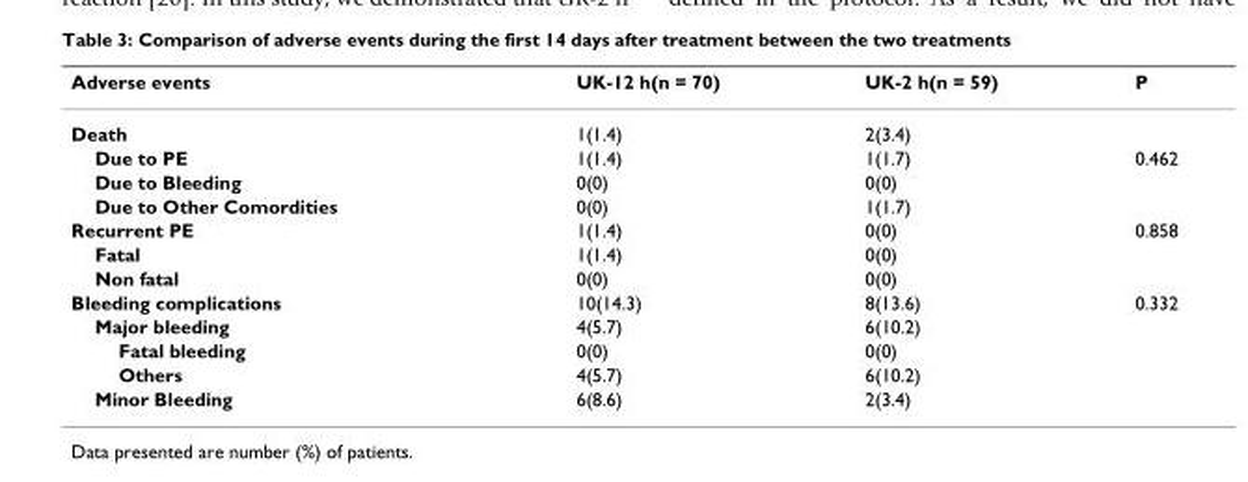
<table><thead><tr><td>Adverse events</td><td>UK-12 h(n = 70)</td><td>UK-2 h(n = 59)</td><td>P</td></tr></thead><tbody><tr><td>Death</td><td>1(1.4)</td><td>2(3.4)</td><td></td></tr><tr><td>Due to PE</td><td>1(1.4)</td><td>1(1.7)</td><td>0.462</td></tr><tr><td>Due to Bleeding</td><td>0(0)</td><td>0(0)</td><td></td></tr><tr><td>Due to Other Comordities</td><td>0(0)</td><td>1(1.7)</td><td></td></tr><tr><td>Recurrent PE</td><td>1(1.4)</td><td>0(0)</td><td>0.858</td></tr><tr><td>Fatal</td><td>1(1.4)</td><td>0(0)</td><td></td></tr><tr><td>Non fatal</td><td>0(0)</td><td>0(0)</td><td></td></tr><tr><td>Bleeding complications</td><td>10(14.3)</td><td>8(13.6)</td><td>0.332</td></tr><tr><td>Major bleeding</td><td>4(5.7)</td><td>6(10.2)</td><td></td></tr><tr><td>Fatal bleeding</td><td>0(0)</td><td>0(0)</td><td></td></tr><tr><td>Others</td><td>4(5.7)</td><td>6(10.2)</td><td></td></tr><tr><td>Minor Bleeding</td><td>6(8.6)</td><td>2(3.4)</td><td></td></tr></tbody></table>